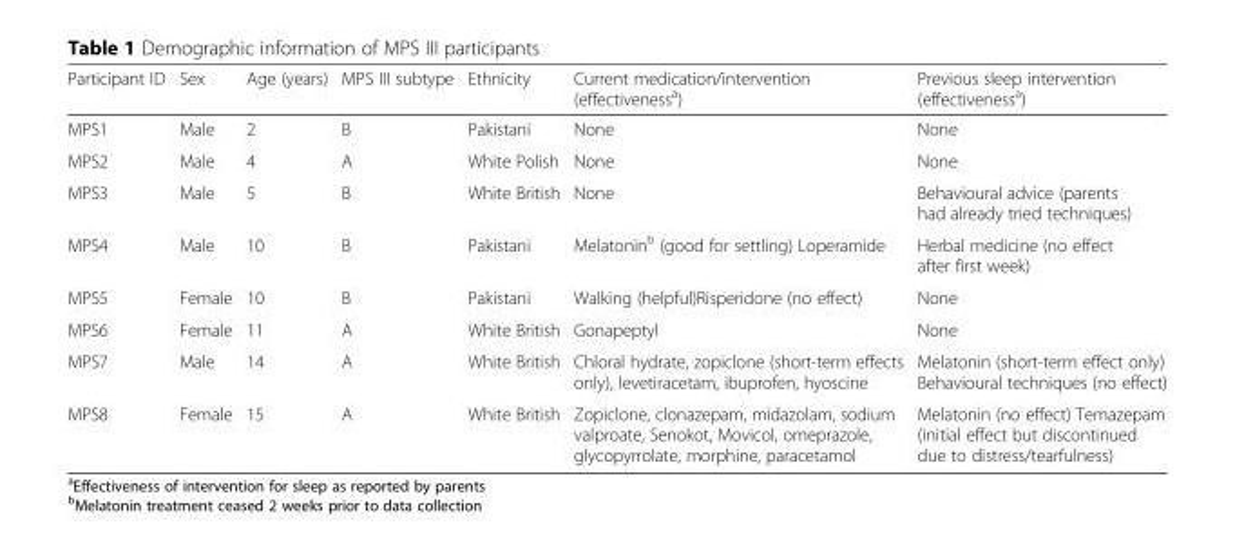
<table><thead><tr><td>Participant ID</td><td>Sex</td><td>Age (years)</td><td>MPS III subtype</td><td>Ethnicity</td><td>Current medication/intervention (effectiveness<sup>a</sup>)</td><td>Previous sleep intervention (effectiveness<sup>a</sup>)</td></tr></thead><tbody><tr><td>MPS1</td><td>Male</td><td>2</td><td>B</td><td>Pakistani</td><td>None</td><td>None</td></tr><tr><td>MPS2</td><td>Male</td><td>4</td><td>A</td><td>White Polish</td><td>None</td><td>None</td></tr><tr><td>MPS3</td><td>Male</td><td>5</td><td>B</td><td>White British</td><td>None</td><td>Behavioural advice (parents had already tried techniques)</td></tr><tr><td>MPS4</td><td>Male</td><td>10</td><td>B</td><td>Pakistani</td><td>Melatonin<sup>b</sup> (good for settling) Loperamide</td><td>Herbal medicine (no effect after first week)</td></tr><tr><td>MPS5</td><td>Female</td><td>10</td><td>B</td><td>Pakistani</td><td>Walking (helpful)Risperidone (no effect)</td><td>None</td></tr><tr><td>MPS6</td><td>Female</td><td>11</td><td>A</td><td>White British</td><td>Gonapeptyl</td><td>None</td></tr><tr><td>MPS7</td><td>Male</td><td>14</td><td>A</td><td>White British</td><td>Chloral hydrate, zopiclone (short-term effects only), levetiracetam, ibuprofen, hyoscine</td><td>Melatonin (short-term effect only) Behavioural techniques (no effect)</td></tr><tr><td>MPS8</td><td>Female</td><td>15</td><td>A</td><td>White British</td><td>Zopiclone, clonazepam, midazolam, sodium valproate, Senokot, Movicol, omeprazole, glycopyrrolate, morphine, paracetamol</td><td>Melatonin (no effect) Temazepam (initial effect but discontinued due to distress/tearfulness)</td></tr></tbody></table>